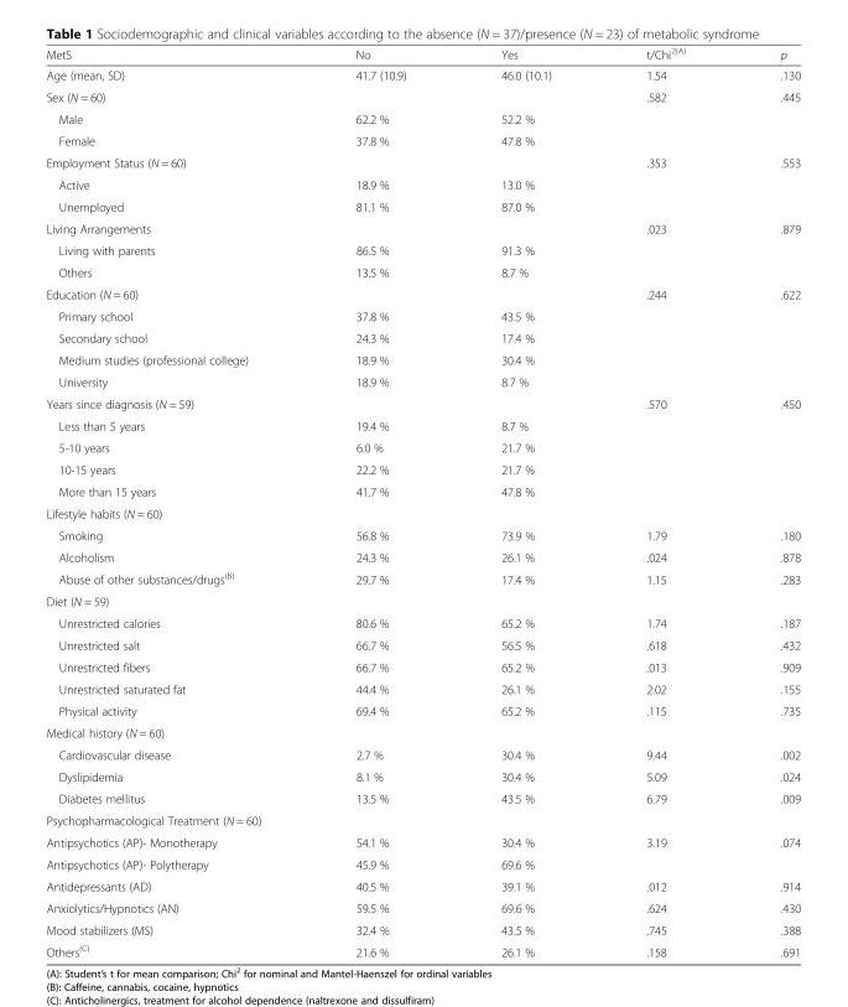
<table><thead><tr><td>MetS</td><td>No</td><td>Yes</td><td>t/Chi<sup>2(A)</sup></td><td>p</td></tr></thead><tbody><tr><td>Age (mean, SD)</td><td>41.7 (10.9)</td><td>46.0 (10.1)</td><td>1.54</td><td>.130</td></tr><tr><td colspan="3">Sex (N = 60)</td><td rowspan="3">.582</td><td rowspan="3">.445</td></tr><tr><td>Male</td><td>62.2 %</td><td>52.2 %</td></tr><tr><td>Female</td><td>37.8 %</td><td>47.8 %</td></tr><tr><td colspan="3">Employment Status (N = 60)</td><td rowspan="3">.353</td><td rowspan="3">.553</td></tr><tr><td>Active</td><td>18.9 %</td><td>13.0 %</td></tr><tr><td>Unemployed</td><td>81.1 %</td><td>87.0 %</td></tr><tr><td colspan="3">Living Arrangements</td><td rowspan="3">.023</td><td rowspan="3">.879</td></tr><tr><td>Living with parents</td><td>86.5 %</td><td>91.3 %</td></tr><tr><td>Others</td><td>13.5 %</td><td>8.7 %</td></tr><tr><td colspan="3">Education (N = 60)</td><td rowspan="5">.244</td><td rowspan="5">.622</td></tr><tr><td>Primary school</td><td>37.8 %</td><td>43.5 %</td></tr><tr><td>Secondary school</td><td>24.3 %</td><td>17.4 %</td></tr><tr><td>Medium studies (professional college)</td><td>18.9 %</td><td>30.4 %</td></tr><tr><td>University</td><td>18.9 %</td><td>8.7 %</td></tr><tr><td colspan="3">Years since diagnosis (N = 59)</td><td rowspan="5">.570</td><td rowspan="5">.450</td></tr><tr><td>Less than 5 years</td><td>19.4 %</td><td>8.7 %</td></tr><tr><td>5-10 years</td><td>6.0 %</td><td>21.7 %</td></tr><tr><td>10-15 years</td><td>22.2 %</td><td>21.7 %</td></tr><tr><td>More than 15 years</td><td>41.7 %</td><td>47.8 %</td></tr><tr><td colspan="5">Lifestyle habits (N = 60)</td></tr><tr><td>Smoking</td><td>56.8 %</td><td>73.9 %</td><td>1.79</td><td>.180</td></tr><tr><td>Alcoholism</td><td>24.3 %</td><td>26.1 %</td><td>.024</td><td>.878</td></tr><tr><td>Abuse of other substances/drugs<sup>(B)</sup></td><td>29.7 %</td><td>17.4 %</td><td>1.15</td><td>.283</td></tr><tr><td colspan="5">Diet (N = 59)</td></tr><tr><td>Unrestricted calories</td><td>80.6 %</td><td>65.2 %</td><td>1.74</td><td>.187</td></tr><tr><td>Unrestricted salt</td><td>66.7 %</td><td>56.5 %</td><td>.618</td><td>.432</td></tr><tr><td>Unrestricted fibers</td><td>66.7 %</td><td>65.2 %</td><td>.013</td><td>.909</td></tr><tr><td>Unrestricted saturated fat</td><td>44.4 %</td><td>26.1 %</td><td>2.02</td><td>.155</td></tr><tr><td>Physical activity</td><td>69.4 %</td><td>65.2 %</td><td>.115</td><td>.735</td></tr><tr><td colspan="5">Medical history (N = 60)</td></tr><tr><td>Cardiovascular disease</td><td>2.7 %</td><td>30.4 %</td><td>9.44</td><td>.002</td></tr><tr><td>Dyslipidemia</td><td>8.1 %</td><td>30.4 %</td><td>5.09</td><td>.024</td></tr><tr><td>Diabetes mellitus</td><td>13.5 %</td><td>43.5 %</td><td>6.79</td><td>.009</td></tr><tr><td colspan="5">Psychopharmacological Treatment (N = 60)</td></tr><tr><td>Antipsychotics (AP)- Monotherapy</td><td>54.1 %</td><td>30.4 %</td><td rowspan="2">3.19</td><td rowspan="2">.074</td></tr><tr><td>Antipsychotics (AP)- Polytherapy</td><td>45.9 %</td><td>69.6 %</td></tr><tr><td>Antidepressants (AD)</td><td>40.5 %</td><td>39.1 %</td><td>.012</td><td>.914</td></tr><tr><td>Anxiolytics/Hypnotics (AN)</td><td>59.5 %</td><td>69.6 %</td><td>.624</td><td>.430</td></tr><tr><td>Mood stabilizers (MS)</td><td>32.4 %</td><td>43.5 %</td><td>.745</td><td>.388</td></tr><tr><td>Others<sup>(C)</sup></td><td>21.6 %</td><td>26.1 %</td><td>.158</td><td>.691</td></tr></tbody></table>